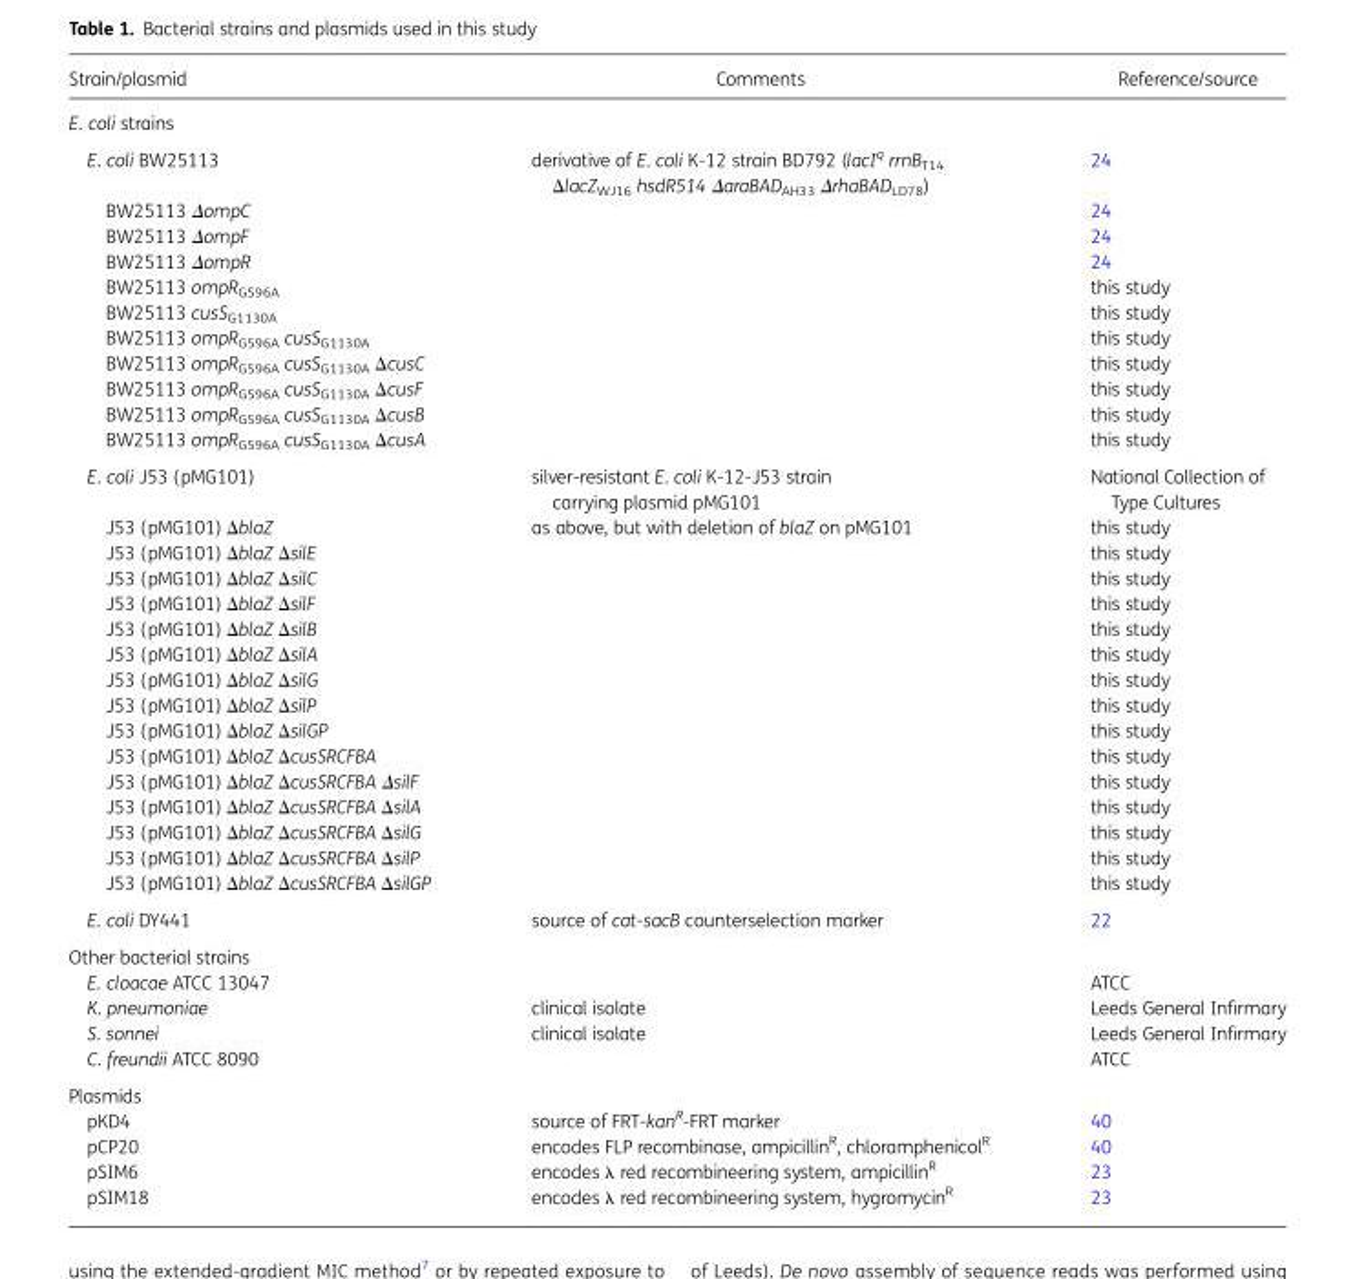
<table><thead><tr><td>Strain/plasmid</td><td>Comments</td><td>Reference/source</td></tr></thead><tbody><tr><td colspan="3">E. coli strains</td></tr><tr><td>E. coli BW25113</td><td>derivative of E. coli K-12 strain BD792 (lacI<sup>q</sup> rrnB<sub>T14</sub> ΔlacZ<sub>WJ16</sub> hsdR514 ΔaraBAD<sub>AH33</sub> ΔrhaBAD<sub>LD78</sub>)</td><td>24</td></tr><tr><td>BW25113 ΔompC</td><td></td><td>24</td></tr><tr><td>BW25113 ΔompF</td><td></td><td>24</td></tr><tr><td>BW25113 ΔompR</td><td></td><td>24</td></tr><tr><td>BW25113 ompR<sub>G596A</sub></td><td></td><td>this study</td></tr><tr><td>BW25113 cusS<sub>G1130A</sub></td><td></td><td>this study</td></tr><tr><td>BW25113 ompR<sub>G596A</sub> cusS<sub>G1130A</sub></td><td></td><td>this study</td></tr><tr><td>BW25113 ompR<sub>G596A</sub> cusS<sub>G1130A</sub> ΔcusC</td><td></td><td>this study</td></tr><tr><td>BW25113 ompR<sub>G596A</sub> cusS<sub>G1130A</sub> ΔcusF</td><td></td><td>this study</td></tr><tr><td>BW25113 ompR<sub>G596A</sub> cusS<sub>G1130A</sub> ΔcusB</td><td></td><td>this study</td></tr><tr><td>BW25113 ompR<sub>G596A</sub> cusS<sub>G1130A</sub> ΔcusA</td><td></td><td>this study</td></tr><tr><td>E. coli J53 (pMG101)</td><td>silver-resistant E. coli K-12-J53 strain carrying plasmid pMG101</td><td>National Collection of Type Cultures</td></tr><tr><td>J53 (pMG101) ΔblaZ</td><td>as above, but with deletion of blaZ on pMG101</td><td>this study</td></tr><tr><td>J53 (pMG101) ΔblaZ ΔsilE</td><td></td><td>this study</td></tr><tr><td>J53 (pMG101) ΔblaZ ΔsilC</td><td></td><td>this study</td></tr><tr><td>J53 (pMG101) ΔblaZ ΔsilF</td><td></td><td>this study</td></tr><tr><td>J53 (pMG101) ΔblaZ ΔsilB</td><td></td><td>this study</td></tr><tr><td>J53 (pMG101) ΔblaZ ΔsilA</td><td></td><td>this study</td></tr><tr><td>J53 (pMG101) ΔblaZ ΔsilG</td><td></td><td>this study</td></tr><tr><td>J53 (pMG101) ΔblaZ ΔsilP</td><td></td><td>this study</td></tr><tr><td>J53 (pMG101) ΔblaZ ΔsilGP</td><td></td><td>this study</td></tr><tr><td>J53 (pMG101) ΔblaZ ΔcusSRCFBA</td><td></td><td>this study</td></tr><tr><td>J53 (pMG101) ΔblaZ ΔcusSRCFBA ΔsilF</td><td></td><td>this study</td></tr><tr><td>J53 (pMG101) ΔblaZ ΔcusSRCFBA ΔsilA</td><td></td><td>this study</td></tr><tr><td>J53 (pMG101) ΔblaZ ΔcusSRCFBA ΔsilG</td><td></td><td>this study</td></tr><tr><td>J53 (pMG101) ΔblaZ ΔcusSRCFBA ΔsilP</td><td></td><td>this study</td></tr><tr><td>J53 (pMG101) ΔblaZ ΔcusSRCFBA ΔsilGP</td><td></td><td>this study</td></tr><tr><td>E. coli DY441</td><td>source of cat-sacB counterselection marker</td><td>22</td></tr><tr><td colspan="3">Other bacterial strains</td></tr><tr><td>E. cloacae ATCC 13047</td><td></td><td>ATCC</td></tr><tr><td>K. pneumoniae</td><td>clinical isolate</td><td>Leeds General Infirmary</td></tr><tr><td>S. sonnei</td><td>clinical isolate</td><td>Leeds General Infirmary</td></tr><tr><td>C. freundii ATCC 8090</td><td></td><td>ATCC</td></tr><tr><td colspan="3">Plasmids</td></tr><tr><td>pKD4</td><td>source of FRT-kan<sup>R</sup>-FRT marker</td><td>40</td></tr><tr><td>pCP20</td><td>encodes FLP recombinase, ampicillin<sup>R</sup>, chloramphenicol<sup>R</sup></td><td>40</td></tr><tr><td>pSIM6</td><td>encodes λ red recombineering system, ampicillin<sup>R</sup></td><td>23</td></tr><tr><td>pSIM18</td><td>encodes λ red recombineering system, hygromycin<sup>R</sup></td><td>23</td></tr></tbody></table>